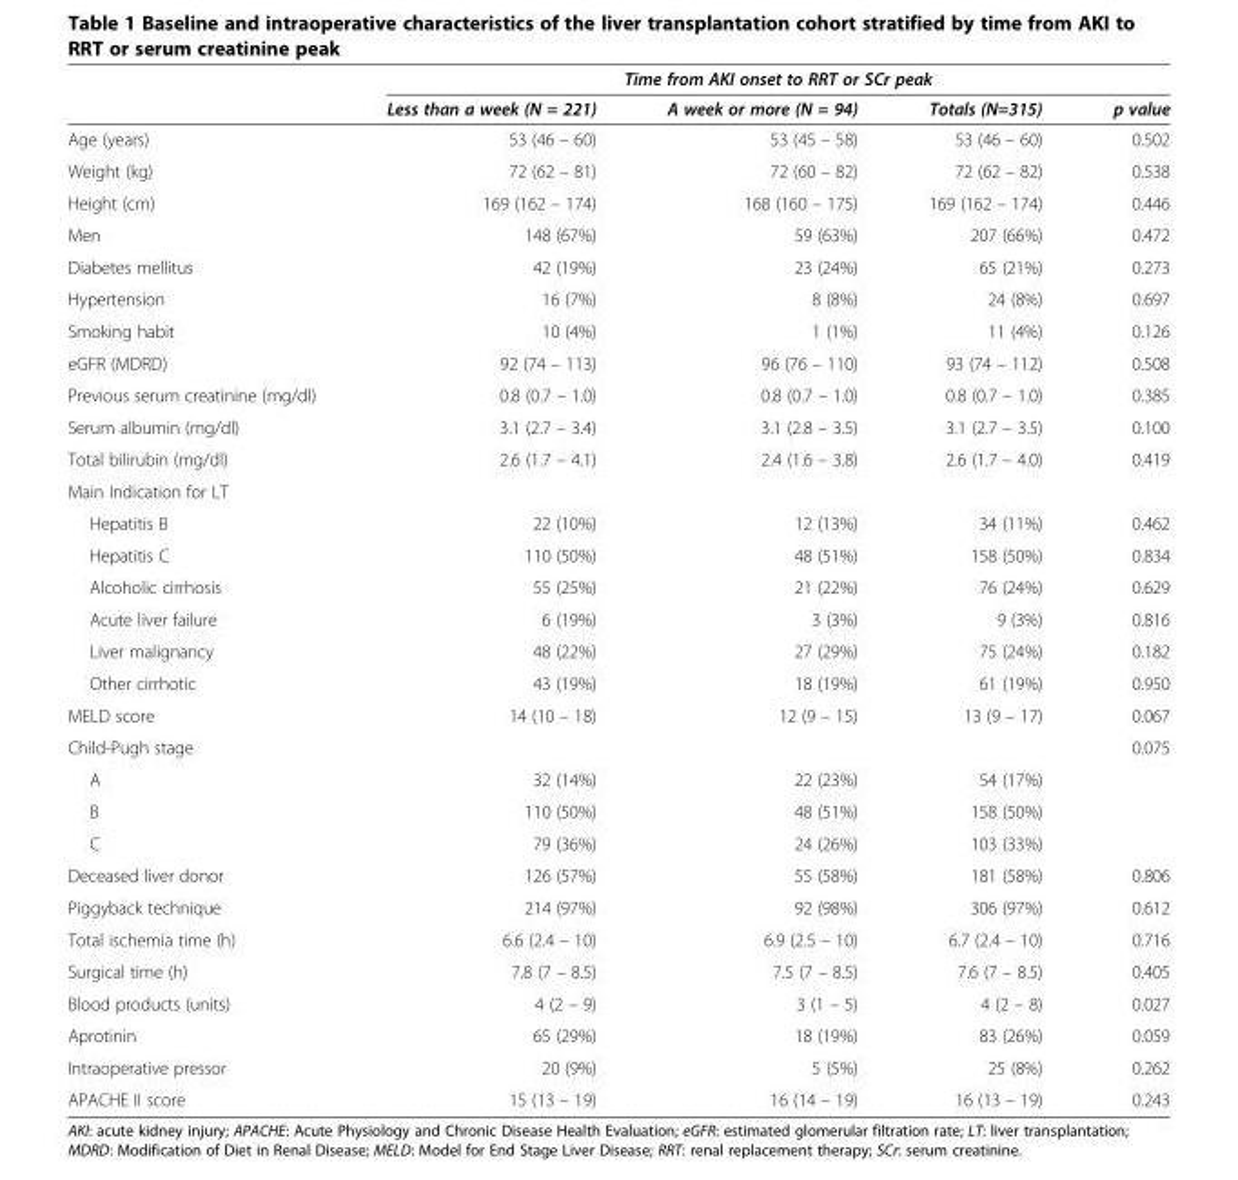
<table><thead><tr><td rowspan="2"></td><td colspan="4">Time from AKI onset to RRT or SCr peak</td></tr><tr><td>Less than a week (N = 221)</td><td>A week or more (N = 94)</td><td>Totals (N=315)</td><td>p value</td></tr></thead><tbody><tr><td>Age (years)</td><td>53 (46 – 60)</td><td>53 (45 – 58)</td><td>53 (46 – 60)</td><td>0.502</td></tr><tr><td>Weight (kg)</td><td>72 (62 – 81)</td><td>72 (60 – 82)</td><td>72 (62 – 82)</td><td>0.538</td></tr><tr><td>Height (cm)</td><td>169 (162 – 174)</td><td>168 (160 – 175)</td><td>169 (162 – 174)</td><td>0.446</td></tr><tr><td>Men</td><td>148 (67%)</td><td>59 (63%)</td><td>207 (66%)</td><td>0.472</td></tr><tr><td>Diabetes mellitus</td><td>42 (19%)</td><td>23 (24%)</td><td>65 (21%)</td><td>0.273</td></tr><tr><td>Hypertension</td><td>16 (7%)</td><td>8 (8%)</td><td>24 (8%)</td><td>0.697</td></tr><tr><td>Smoking habit</td><td>10 (4%)</td><td>1 (1%)</td><td>11 (4%)</td><td>0.126</td></tr><tr><td>eGFR (MDRD)</td><td>92 (74 – 113)</td><td>96 (76 – 110)</td><td>93 (74 – 112)</td><td>0.508</td></tr><tr><td>Previous serum creatinine (mg/dl)</td><td>0.8 (0.7 – 1.0)</td><td>0.8 (0.7 – 1.0)</td><td>0.8 (0.7 – 1.0)</td><td>0.385</td></tr><tr><td>Serum albumin (mg/dl)</td><td>3.1 (2.7 – 3.4)</td><td>3.1 (2.8 – 3.5)</td><td>3.1 (2.7 – 3.5)</td><td>0.100</td></tr><tr><td>Total bilirubin (mg/dl)</td><td>2.6 (1.7 – 4.1)</td><td>2.4 (1.6 – 3.8)</td><td>2.6 (1.7 – 4.0)</td><td>0.419</td></tr><tr><td colspan="5">Main Indication for LT</td></tr><tr><td>Hepatitis B</td><td>22 (10%)</td><td>12 (13%)</td><td>34 (11%)</td><td>0.462</td></tr><tr><td>Hepatitis C</td><td>110 (50%)</td><td>48 (51%)</td><td>158 (50%)</td><td>0.834</td></tr><tr><td>Alcoholic cirrhosis</td><td>55 (25%)</td><td>21 (22%)</td><td>76 (24%)</td><td>0.629</td></tr><tr><td>Acute liver failure</td><td>6 (19%)</td><td>3 (3%)</td><td>9 (3%)</td><td>0.816</td></tr><tr><td>Liver malignancy</td><td>48 (22%)</td><td>27 (29%)</td><td>75 (24%)</td><td>0.182</td></tr><tr><td>Other cirrhotic</td><td>43 (19%)</td><td>18 (19%)</td><td>61 (19%)</td><td>0.950</td></tr><tr><td>MELD score</td><td>14 (10 – 18)</td><td>12 (9 – 15)</td><td>13 (9 – 17)</td><td>0.067</td></tr><tr><td>Child-Pugh stage</td><td></td><td></td><td></td><td>0.075</td></tr><tr><td>A</td><td>32 (14%)</td><td>22 (23%)</td><td>54 (17%)</td><td></td></tr><tr><td>B</td><td>110 (50%)</td><td>48 (51%)</td><td>158 (50%)</td><td></td></tr><tr><td>C</td><td>79 (36%)</td><td>24 (26%)</td><td>103 (33%)</td><td></td></tr><tr><td>Deceased liver donor</td><td>126 (57%)</td><td>55 (58%)</td><td>181 (58%)</td><td>0.806</td></tr><tr><td>Piggyback technique</td><td>214 (97%)</td><td>92 (98%)</td><td>306 (97%)</td><td>0.612</td></tr><tr><td>Total ischemia time (h)</td><td>6.6 (2.4 – 10)</td><td>6.9 (2.5 – 10)</td><td>6.7 (2.4 – 10)</td><td>0.716</td></tr><tr><td>Surgical time (h)</td><td>7.8 (7 – 8.5)</td><td>7.5 (7 – 8.5)</td><td>7.6 (7 – 8.5)</td><td>0.405</td></tr><tr><td>Blood products (units)</td><td>4 (2 – 9)</td><td>3 (1 – 5)</td><td>4 (2 – 8)</td><td>0.027</td></tr><tr><td>Aprotinin</td><td>65 (29%)</td><td>18 (19%)</td><td>83 (26%)</td><td>0.059</td></tr><tr><td>Intraoperative pressor</td><td>20 (9%)</td><td>5 (5%)</td><td>25 (8%)</td><td>0.262</td></tr><tr><td>APACHE II score</td><td>15 (13 – 19)</td><td>16 (14 – 19)</td><td>16 (13 – 19)</td><td>0.243</td></tr></tbody></table>